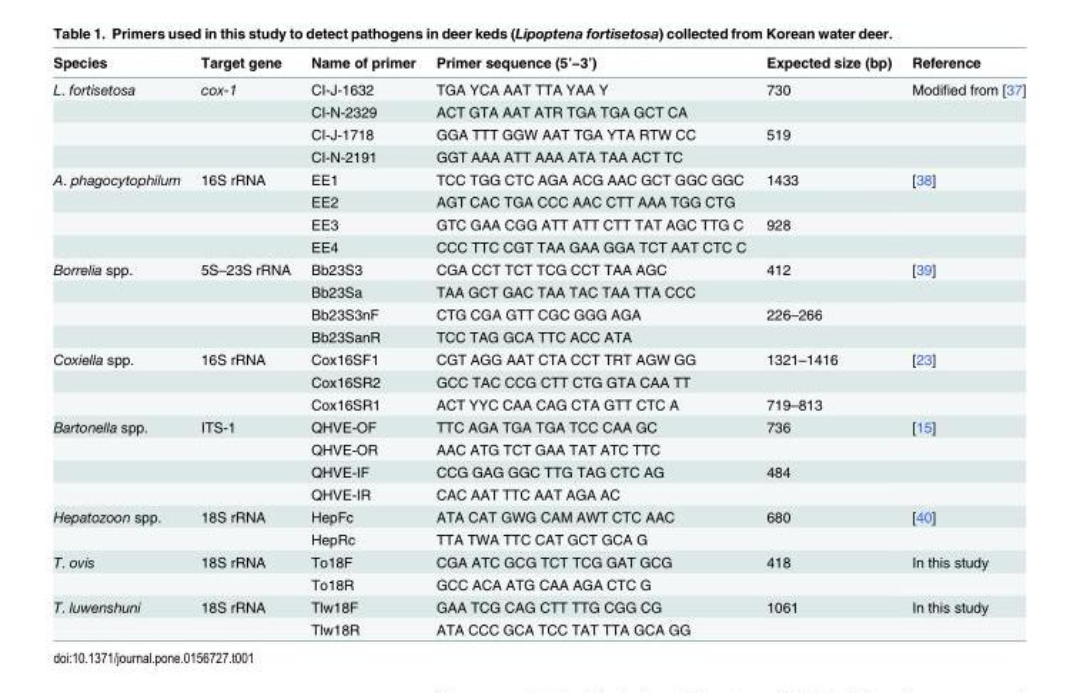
<table><thead><tr><td>Species</td><td>Target gene</td><td>Name of primer</td><td>Primer sequence (5’−3’)</td><td>Expected size (bp)</td><td>Reference</td></tr></thead><tbody><tr><td rowspan="4">L. fortisetosa</td><td>cox-1</td><td>CI-J-1632</td><td>TGA YCA AAT TTA YAA Y</td><td>730</td><td>Modified from [37]</td></tr><tr><td></td><td>CI-N-2329</td><td>ACT GTA AAT ATR TGA TGA GCT CA</td><td></td><td></td></tr><tr><td></td><td>CI-J-1718</td><td>GGA TTT GGW AAT TGA YTA RTW CC</td><td>519</td><td></td></tr><tr><td></td><td>CI-N-2191</td><td>GGT AAA ATT AAA ATA TAA ACT TC</td><td></td><td></td></tr><tr><td rowspan="4">A. phagocytophilum</td><td>16S rRNA</td><td>EE1</td><td>TCC TGG CTC AGA ACG AAC GCT GGC GGC</td><td>1433</td><td>[38]</td></tr><tr><td></td><td>EE2</td><td>AGT CAC TGA CCC AAC CTT AAA TGG CTG</td><td></td><td></td></tr><tr><td></td><td>EE3</td><td>GTC GAA CGG ATT ATT CTT TAT AGC TTG C</td><td>928</td><td></td></tr><tr><td></td><td>EE4</td><td>CCC TTC CGT TAA GAA GGA TCT AAT CTC C</td><td></td><td></td></tr><tr><td rowspan="4">Borrelia spp.</td><td>5S–23S rRNA</td><td>Bb23S3</td><td>CGA CCT TCT TCG CCT TAA AGC</td><td>412</td><td>[39]</td></tr><tr><td></td><td>Bb23Sa</td><td>TAA GCT GAC TAA TAC TAA TTA CCC</td><td></td><td></td></tr><tr><td></td><td>Bb23S3nF</td><td>CTG CGA GTT CGC GGG AGA</td><td>226–266</td><td></td></tr><tr><td></td><td>Bb23SanR</td><td>TCC TAG GCA TTC ACC ATA</td><td></td><td></td></tr><tr><td rowspan="3">Coxiella spp.</td><td>16S rRNA</td><td>Cox16SF1</td><td>CGT AGG AAT CTA CCT TRT AGW GG</td><td>1321–1416</td><td>[23]</td></tr><tr><td></td><td>Cox16SR2</td><td>GCC TAC CCG CTT CTG GTA CAA TT</td><td></td><td></td></tr><tr><td></td><td>Cox16SR1</td><td>ACT YYC CAA CAG CTA GTT CTC A</td><td>719–813</td><td></td></tr><tr><td rowspan="4">Bartonella spp.</td><td>ITS-1</td><td>QHVE-OF</td><td>TTC AGA TGA TGA TCC CAA GC</td><td>736</td><td>[15]</td></tr><tr><td></td><td>QHVE-OR</td><td>AAC ATG TCT GAA TAT ATC TTC</td><td></td><td></td></tr><tr><td></td><td>QHVE-IF</td><td>CCG GAG GGC TTG TAG CTC AG</td><td>484</td><td></td></tr><tr><td></td><td>QHVE-IR</td><td>CAC AAT TTC AAT AGA AC</td><td></td><td></td></tr><tr><td rowspan="2">Hepatozoon spp.</td><td>18S rRNA</td><td>HepFc</td><td>ATA CAT GWG CAM AWT CTC AAC</td><td>680</td><td>[40]</td></tr><tr><td></td><td>HepRc</td><td>TTA TWA TTC CAT GCT GCA G</td><td></td><td></td></tr><tr><td rowspan="2">T. ovis</td><td>18S rRNA</td><td>To18F</td><td>CGA ATC GCG TCT TCG GAT GCG</td><td>418</td><td>In this study</td></tr><tr><td></td><td>To18R</td><td>GCC ACA ATG CAA AGA CTC G</td><td></td><td></td></tr><tr><td rowspan="2">T. luwenshuni</td><td>18S rRNA</td><td>Tlw18F</td><td>GAA TCG CAG CTT TTG CGG CG</td><td>1061</td><td>In this study</td></tr><tr><td></td><td>Tlw18R</td><td>ATA CCC GCA TCC TAT TTA GCA GG</td><td></td><td></td></tr></tbody></table>